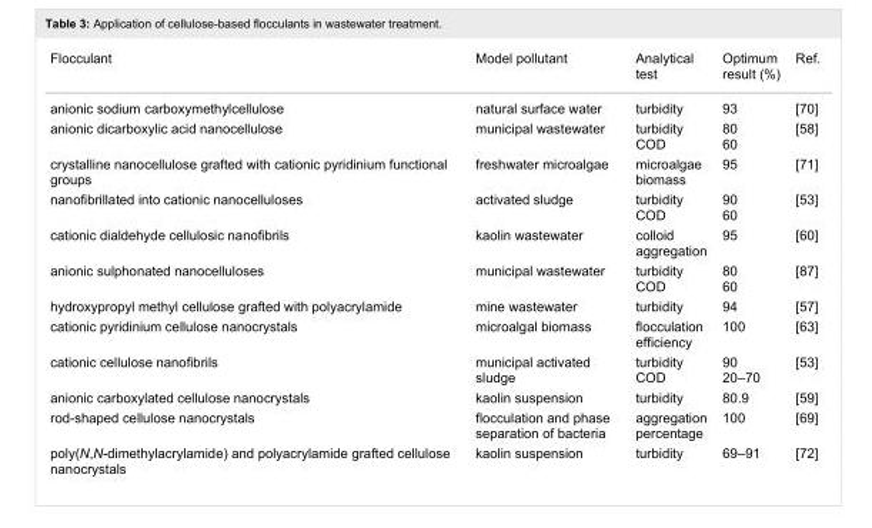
<table><tbody><tr><td>Flocculant</td><td>Model pollutant</td><td>Analytical test</td><td>Optimum result (%)</td><td>Ref.</td></tr><tr><td>anionic sodium carboxymethylcellulose</td><td>natural surface water</td><td>turbidity</td><td>93</td><td>[70]</td></tr><tr><td>anionic dicarboxylic acid nanocellulose</td><td>municipal wastewater</td><td>turbidity COD</td><td>80 60</td><td>[58]</td></tr><tr><td>crystalline nanocellulose grafted with cationic pyridinium functional groups</td><td>freshwater microalgae</td><td>microalgae biomass</td><td>95</td><td>[71]</td></tr><tr><td>nanofibrillated into cationic nanocelluloses</td><td>activated sludge</td><td>turbidity COD</td><td>90 60</td><td>[53]</td></tr><tr><td>cationic dialdehyde cellulosic nanofibrils</td><td>kaolin wastewater</td><td>colloid aggregation</td><td>95</td><td>[60]</td></tr><tr><td>anionic sulphonated nanocelluloses</td><td>municipal wastewater</td><td>turbidity COD</td><td>80 60</td><td>[87]</td></tr><tr><td>hydroxypropyl methyl cellulose grafted with polyacrylamide</td><td>mine wastewater</td><td>turbidity</td><td>94</td><td>[57]</td></tr><tr><td>cationic pyridinium cellulose nanocrystals</td><td>microalgal biomass</td><td>flocculation efficiency</td><td>100</td><td>[63]</td></tr><tr><td>cationic cellulose nanofibrils</td><td>municipal activated sludge</td><td>turbidity COD</td><td>90 20–70</td><td>[53]</td></tr><tr><td>anionic carboxylated cellulose nanocrystals</td><td>kaolin suspension</td><td>turbidity</td><td>80.9</td><td>[59]</td></tr><tr><td>rod-shaped cellulose nanocrystals</td><td>flocculation and phase separation of bacteria</td><td>aggregation percentage</td><td>100</td><td>[69]</td></tr><tr><td>poly(N,N-dimethylacrylamide) and polyacrylamide grafted cellulose nanocrystals</td><td>kaolin suspension</td><td>turbidity</td><td>69–91</td><td>[72]</td></tr></tbody></table>